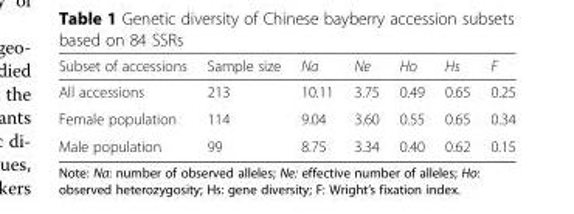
<table><thead><tr><td>Subset of accessions</td><td>Sample size</td><td>Na</td><td>Ne</td><td>Ho</td><td>Hs</td><td>F</td></tr></thead><tbody><tr><td>All accessions</td><td>213</td><td>10.11</td><td>3.75</td><td>0.49</td><td>0.65</td><td>0.25</td></tr><tr><td>Female population</td><td>114</td><td>9.04</td><td>3.60</td><td>0.55</td><td>0.65</td><td>0.34</td></tr><tr><td>Male population</td><td>99</td><td>8.75</td><td>3.34</td><td>0.40</td><td>0.62</td><td>0.15</td></tr></tbody></table>